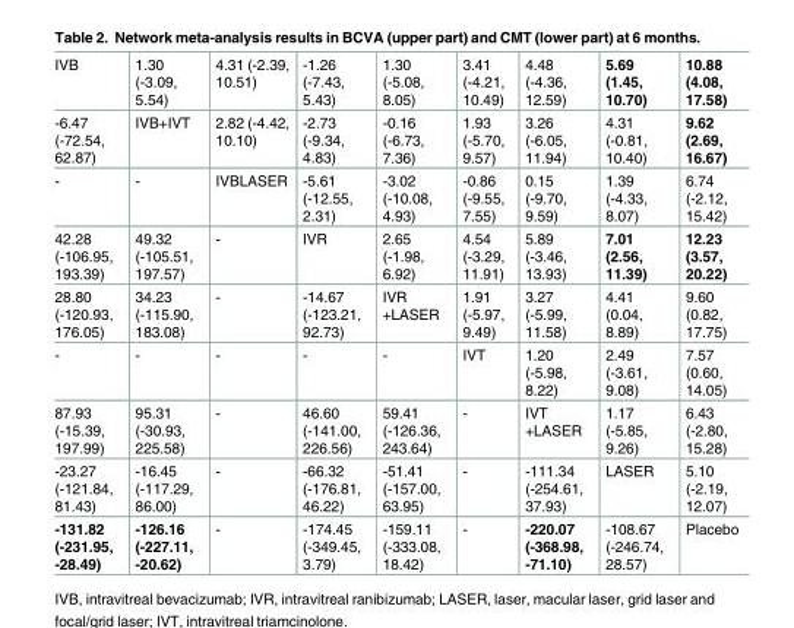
<table><tbody><tr><td>IVB</td><td>1.30 (-3.09, 5.54)</td><td>4.31 (-2.39, 10.51)</td><td>-1.26 (-7.43, 5.43)</td><td>1.30 (-5.08, 8.05)</td><td>3.41 (-4.21, 10.49)</td><td>4.48 (-4.36, 12.59)</td><td>5.69 (1.45, 10.70)</td><td>10.88 (4.08, 17.58)</td></tr><tr><td>-6.47 (-72.54, 62.87)</td><td>IVB+IVT</td><td>2.82 (-4.42, 10.10)</td><td>-2.73 (-9.34, 4.83)</td><td>-0.16 (-6.73, 7.36)</td><td>1.93 (-5.70, 9.57)</td><td>3.26 (-6.05, 11.94)</td><td>4.31 (-0.81, 10.40)</td><td>9.62 (2.69, 16.67)</td></tr><tr><td>-</td><td>-</td><td>IVBLASER</td><td>-5.61 (-12.55, 2.31)</td><td>-3.02 (-10.08, 4.93)</td><td>-0.86 (-9.55, 7.55)</td><td>0.15 (-9.70, 9.59)</td><td>1.39 (-4.33, 8.07)</td><td>6.74 (-2.12, 15.42)</td></tr><tr><td>42.28 (-106.95, 193.39)</td><td>49.32 (-105.51, 197.57)</td><td>-</td><td>IVR</td><td>2.65 (-1.98, 6.92)</td><td>4.54 (-3.29, 11.91)</td><td>5.89 (-3.46, 13.93)</td><td>7.01 (2.56, 11.39)</td><td>12.23 (3.57, 20.22)</td></tr><tr><td>28.80 (-120.93, 176.05)</td><td>34.23 (-115.90, 183.08)</td><td>-</td><td>-14.67 (-123.21, 92.73)</td><td>IVR +LASER</td><td>1.91 (-5.97, 9.49)</td><td>3.27 (-5.99, 11.58)</td><td>4.41 (0.04, 8.89)</td><td>9.60 (0.82, 17.75)</td></tr><tr><td>-</td><td>-</td><td>-</td><td>-</td><td>-</td><td>IVT</td><td>1.20 (-5.98, 8.22)</td><td>2.49 (-3.61, 9.08)</td><td>7.57 (0.60, 14.05)</td></tr><tr><td>87.93 (-15.39, 197.99)</td><td>95.31 (-30.93, 225.58)</td><td>-</td><td>46.60 (-141.00, 226.56)</td><td>59.41 (-126.36, 243.64)</td><td>-</td><td>IVT +LASER</td><td>1.17 (-5.85, 9.26)</td><td>6.43 (-2.80, 15.28)</td></tr><tr><td>-23.27 (-121.84, 81.43)</td><td>-16.45 (-117.29, 86.00)</td><td>-</td><td>-66.32 (-176.81, 46.22)</td><td>-51.41 (-157.00, 63.95)</td><td>-</td><td>-111.34 (-254.61, 37.93)</td><td>LASER</td><td>5.10 (-2.19, 12.07)</td></tr><tr><td>-131.82 (-231.95, -28.49)</td><td>-126.16 (-227.11, -20.62)</td><td>-</td><td>-174.45 (-349.45, 3.79)</td><td>-159.11 (-333.08, 18.42)</td><td>-</td><td>-220.07 (-368.98, -71.10)</td><td>-108.67 (-246.74, 28.57)</td><td>Placebo</td></tr></tbody></table>